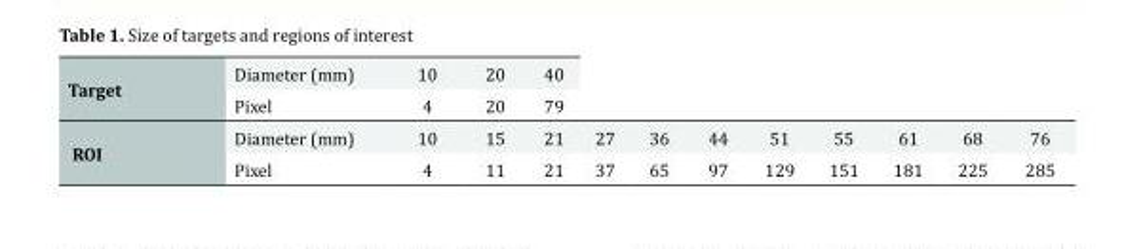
<table><tbody><tr><td rowspan="2">Target</td><td>Diameter (mm)</td><td>10</td><td>20</td><td>40</td><td></td><td></td><td></td><td></td><td></td><td></td><td></td><td></td></tr><tr><td>Pixel</td><td>4</td><td>20</td><td>79</td><td></td><td></td><td></td><td></td><td></td><td></td><td></td><td></td></tr><tr><td rowspan="2">ROI</td><td>Diameter (mm)</td><td>10</td><td>15</td><td>21</td><td>27</td><td>36</td><td>44</td><td>51</td><td>55</td><td>61</td><td>68</td><td>76</td></tr><tr><td>Pixel</td><td>4</td><td>11</td><td>21</td><td>37</td><td>65</td><td>97</td><td>129</td><td>151</td><td>181</td><td>225</td><td>285</td></tr></tbody></table>